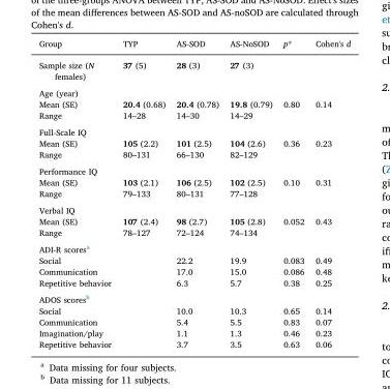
<table><thead><tr><td>Group</td><td>TYP</td><td>AS-SOD</td><td>AS-NoSOD</td><td>p*</td><td>Cohen&#x27;s d</td></tr></thead><tbody><tr><td>Sample size (N females)</td><td>37 (5)</td><td>28 (3)</td><td>27 (3)</td><td></td><td></td></tr><tr><td colspan="6">Age (year)</td></tr><tr><td>Mean (SE)</td><td>20.4 (0.68)</td><td>20.4 (0.78)</td><td>19.8 (0.79)</td><td>0.80</td><td>0.14</td></tr><tr><td>Range</td><td>14–28</td><td>14–30</td><td>14–29</td><td></td><td></td></tr><tr><td colspan="6">Full-Scale IQ</td></tr><tr><td>Mean (SE)</td><td>105 (2.2)</td><td>101 (2.5)</td><td>104 (2.6)</td><td>0.36</td><td>0.23</td></tr><tr><td>Range</td><td>80–131</td><td>66–130</td><td>82–129</td><td></td><td></td></tr><tr><td colspan="6">Performance IQ</td></tr><tr><td>Mean (SE)</td><td>103 (2.1)</td><td>106 (2.5)</td><td>102 (2.5)</td><td>0.10</td><td>0.31</td></tr><tr><td>Range</td><td>79–133</td><td>80–131</td><td>77–128</td><td></td><td></td></tr><tr><td colspan="6">Verbal IQ</td></tr><tr><td>Mean (SE)</td><td>107 (2.4)</td><td>98 (2.7)</td><td>105 (2.8)</td><td>0.052</td><td>0.43</td></tr><tr><td>Range</td><td>78–127</td><td>72–124</td><td>74–134</td><td></td><td></td></tr><tr><td colspan="6">ADI-R scores<sup>a</sup></td></tr><tr><td>Social</td><td></td><td>22.2</td><td>19.9</td><td>0.083</td><td>0.49</td></tr><tr><td>Communication</td><td></td><td>17.0</td><td>15.0</td><td>0.086</td><td>0.48</td></tr><tr><td>Repetitive behavior</td><td></td><td>6.3</td><td>5.7</td><td>0.38</td><td>0.25</td></tr><tr><td colspan="6">ADOS scores<sup>b</sup></td></tr><tr><td>Social</td><td></td><td>10.0</td><td>10.3</td><td>0.65</td><td>0.14</td></tr><tr><td>Communication</td><td></td><td>5.4</td><td>5.5</td><td>0.83</td><td>0.07</td></tr><tr><td>Imagination/play</td><td></td><td>1.1</td><td>1.3</td><td>0.46</td><td>0.23</td></tr><tr><td>Repetitive behavior</td><td></td><td>3.7</td><td>3.5</td><td>0.63</td><td>0.06</td></tr></tbody></table>